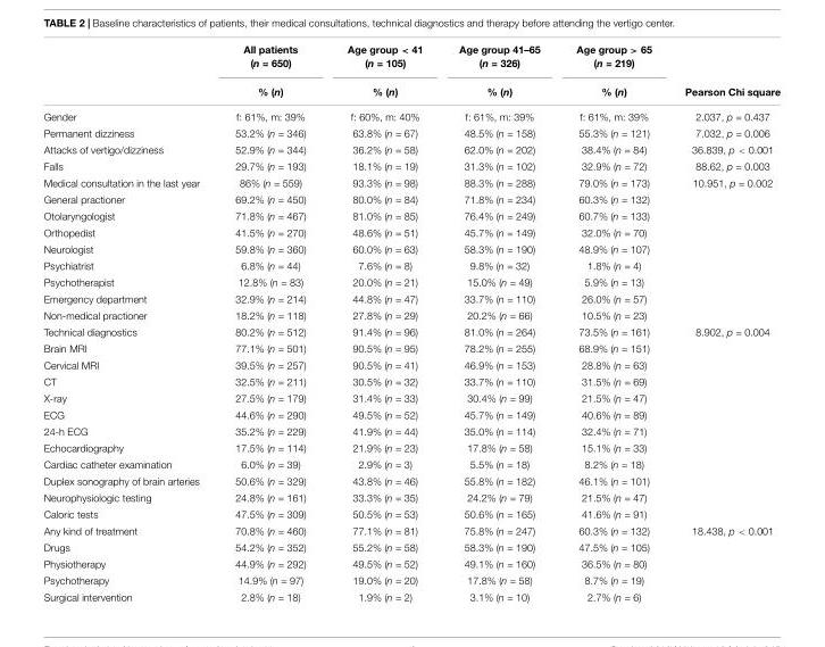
<table><thead><tr><td rowspan="2"></td><td rowspan="2">All patients (n = 650) % (n)</td><td rowspan="2">Age group &lt; 41 (n = 105) % (n)</td><td rowspan="2">Age group 41–65 (n = 326) % (n)</td><td rowspan="2">Age group &gt; 65 (n = 219) % (n)</td><td rowspan="2">Pearson Chi square</td></tr><tr></tr></thead><tbody><tr><td>Gender</td><td>f: 61%, m: 39%</td><td>f: 60%, m: 40%</td><td>f: 61%, m: 39%</td><td>f: 61%, m: 39%</td><td>2.037, p = 0.437</td></tr><tr><td>Permanent dizziness</td><td>53.2% (n = 346)</td><td>63.8% (n = 67)</td><td>48.5% (n = 158)</td><td>55.3% (n = 121)</td><td>7.032, p = 0.006</td></tr><tr><td>Attacks of vertigo/dizziness</td><td>52.9% (n = 344)</td><td>36.2% (n = 58)</td><td>62.0% (n = 202)</td><td>38.4% (n = 84)</td><td>36.839, p &lt; 0.001</td></tr><tr><td>Falls</td><td>29.7% (n = 193)</td><td>18.1% (n = 19)</td><td>31.3% (n = 102)</td><td>32.9% (n = 72)</td><td>88.62, p = 0.003</td></tr><tr><td>Medical consultation in the last year</td><td>86% (n = 559)</td><td>93.3% (n = 98)</td><td>88.3% (n = 288)</td><td>79.0% (n = 173)</td><td>10.951, p = 0.002</td></tr><tr><td>General practioner</td><td>69.2% (n = 450)</td><td>80.0% (n = 84)</td><td>71.8% (n = 234)</td><td>60.3% (n = 132)</td><td></td></tr><tr><td>Otolaryngologist</td><td>71.8% (n = 467)</td><td>81.0% (n = 85)</td><td>76.4% (n = 249)</td><td>60.7% (n = 133)</td><td></td></tr><tr><td>Orthopedist</td><td>41.5% (n = 270)</td><td>48.6% (n = 51)</td><td>45.7% (n = 149)</td><td>32.0% (n = 70)</td><td></td></tr><tr><td>Neurologist</td><td>59.8% (n = 360)</td><td>60.0% (n = 63)</td><td>58.3% (n = 190)</td><td>48.9% (n = 107)</td><td></td></tr><tr><td>Psychiatrist</td><td>6.8% (n = 44)</td><td>7.6% (n = 8)</td><td>9.8% (n = 32)</td><td>1.8% (n = 4)</td><td></td></tr><tr><td>Psychotherapist</td><td>12.8% (n = 83)</td><td>20.0% (n = 21)</td><td>15.0% (n = 49)</td><td>5.9% (n = 13)</td><td></td></tr><tr><td>Emergency department</td><td>32.9% (n = 214)</td><td>44.8% (n = 47)</td><td>33.7% (n = 110)</td><td>26.0% (n = 57)</td><td></td></tr><tr><td>Non-medical practioner</td><td>18.2% (n = 118)</td><td>27.8% (n = 29)</td><td>20.2% (n = 66)</td><td>10.5% (n = 23)</td><td></td></tr><tr><td>Technical diagnostics</td><td>80.2% (n = 512)</td><td>91.4% (n = 96)</td><td>81.0% (n = 264)</td><td>73.5% (n = 161)</td><td>8.902, p = 0.004</td></tr><tr><td>Brain MRI</td><td>77.1% (n = 501)</td><td>90.5% (n = 95)</td><td>78.2% (n = 255)</td><td>68.9% (n = 151)</td><td></td></tr><tr><td>Cervical MRI</td><td>39.5% (n = 257)</td><td>90.5% (n = 41)</td><td>46.9% (n = 153)</td><td>28.8% (n = 63)</td><td></td></tr><tr><td>CT</td><td>32.5% (n = 211)</td><td>30.5% (n = 32)</td><td>33.7% (n = 110)</td><td>31.5% (n = 69)</td><td></td></tr><tr><td>X-ray</td><td>27.5% (n = 179)</td><td>31.4% (n = 33)</td><td>30.4% (n = 99)</td><td>21.5% (n = 47)</td><td></td></tr><tr><td>ECG</td><td>44.6% (n = 290)</td><td>49.5% (n = 52)</td><td>45.7% (n = 149)</td><td>40.6% (n = 89)</td><td></td></tr><tr><td>24-h ECG</td><td>35.2% (n = 229)</td><td>41.9% (n = 44)</td><td>35.0% (n = 114)</td><td>32.4% (n = 71)</td><td></td></tr><tr><td>Echocardiography</td><td>17.5% (n = 114)</td><td>21.9% (n = 23)</td><td>17.8% (n = 58)</td><td>15.1% (n = 33)</td><td></td></tr><tr><td>Cardiac catheter examination</td><td>6.0% (n = 39)</td><td>2.9% (n = 3)</td><td>5.5% (n = 18)</td><td>8.2% (n = 18)</td><td></td></tr><tr><td>Duplex sonography of brain arteries</td><td>50.6% (n = 329)</td><td>43.8% (n = 46)</td><td>55.8% (n = 182)</td><td>46.1% (n = 101)</td><td></td></tr><tr><td>Neurophysiologic testing</td><td>24.8% (n = 161)</td><td>33.3% (n = 35)</td><td>24.2% (n = 79)</td><td>21.5% (n = 47)</td><td></td></tr><tr><td>Caloric tests</td><td>47.5% (n = 309)</td><td>50.5% (n = 53)</td><td>50.6% (n = 165)</td><td>41.6% (n = 91)</td><td></td></tr><tr><td>Any kind of treatment</td><td>70.8% (n = 460)</td><td>77.1% (n = 81)</td><td>75.8% (n = 247)</td><td>60.3% (n = 132)</td><td>18.438, p &lt; 0.001</td></tr><tr><td>Drugs</td><td>54.2% (n = 352)</td><td>55.2% (n = 58)</td><td>58.3% (n = 190)</td><td>47.5% (n = 105)</td><td></td></tr><tr><td>Physiotherapy</td><td>44.9% (n = 292)</td><td>49.5% (n = 52)</td><td>49.1% (n = 160)</td><td>36.5% (n = 80)</td><td></td></tr><tr><td>Psychotherapy</td><td>14.9% (n = 97)</td><td>19.0% (n = 20)</td><td>17.8% (n = 58)</td><td>8.7% (n = 19)</td><td></td></tr><tr><td>Surgical intervention</td><td>2.8% (n = 18)</td><td>1.9% (n = 2)</td><td>3.1% (n = 10)</td><td>2.7% (n = 6)</td><td></td></tr></tbody></table>